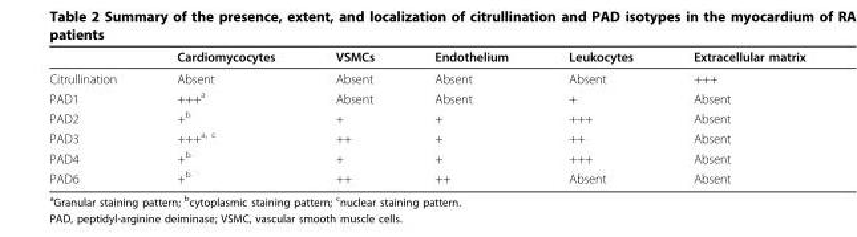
<table><thead><tr><td></td><td>Cardiomycocytes</td><td>VSMCs</td><td>Endothelium</td><td>Leukocytes</td><td>Extracellular matrix</td></tr></thead><tbody><tr><td>Citrullination</td><td>Absent</td><td>Absent</td><td>Absent</td><td>Absent</td><td>+++</td></tr><tr><td>PAD1</td><td>+++<sup>a</sup></td><td>Absent</td><td>Absent</td><td>+</td><td>Absent</td></tr><tr><td>PAD2</td><td>+<sup>b</sup></td><td>+</td><td>+</td><td>+++</td><td>Absent</td></tr><tr><td>PAD3</td><td>+++<sup>a, c</sup></td><td>++</td><td>+</td><td>++</td><td>Absent</td></tr><tr><td>PAD4</td><td>+<sup>b</sup></td><td>+</td><td>+</td><td>+++</td><td>Absent</td></tr><tr><td>PAD6</td><td>+<sup>b</sup></td><td>++</td><td>++</td><td>Absent</td><td>Absent</td></tr></tbody></table>